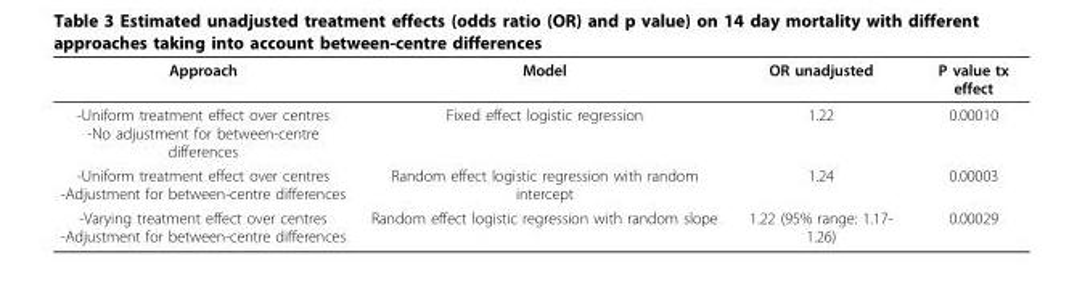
<table><thead><tr><td>Approach</td><td>Model</td><td>OR unadjusted</td><td>P value tx effect</td></tr></thead><tbody><tr><td>-Uniform treatment effect over centres -No adjustment for between-centre differences</td><td>Fixed effect logistic regression</td><td>1.22</td><td>0.00010</td></tr><tr><td>-Uniform treatment effect over centres -Adjustment for between-centre differences</td><td>Random effect logistic regression with random intercept</td><td>1.24</td><td>0.00003</td></tr><tr><td>-Varying treatment effect over centres -Adjustment for between-centre differences</td><td>Random effect logistic regression with random slope</td><td>1.22 (95% range: 1.17- 1.26)</td><td>0.00029</td></tr></tbody></table>